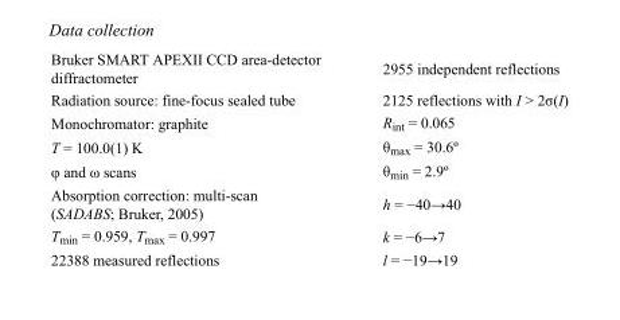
<table><tbody><tr><td>Bruker SMART APEXII CCD area-detector diffractometer</td><td>2955 independent reflections</td></tr><tr><td>Radiation source: fine-focus sealed tube</td><td>2125 reflections with I &gt; 2σ(I)</td></tr><tr><td>Monochromator: graphite</td><td>R<sub>int</sub> = 0.065</td></tr><tr><td>T = 100.0(1) K</td><td>θ<sub>max</sub> = 30.6º</td></tr><tr><td>φ and ω scans</td><td>θ<sub>min</sub> = 2.9º</td></tr><tr><td>Absorption correction: multi-scan (SADABS; Bruker, 2005)</td><td>h = −40→40</td></tr><tr><td>T<sub>min</sub> = 0.959, T<sub>max</sub> = 0.997</td><td>k = −6→7</td></tr><tr><td>22388 measured reflections</td><td>l = −19→19</td></tr></tbody></table>